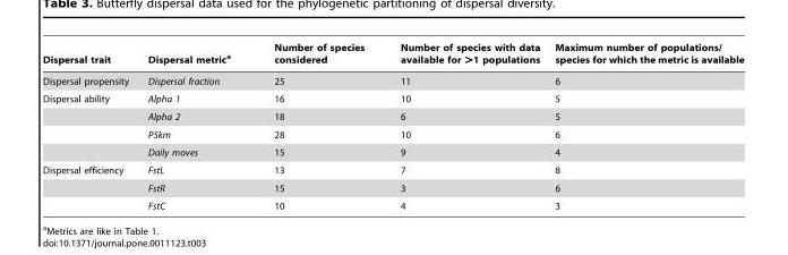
<table><thead><tr><td>Dispersal trait</td><td>Dispersal metric<sup>a</sup></td><td>Number of species considered</td><td>Number of species with data available for &gt;1 populations</td><td>Maximum number of populations/ species for which the metric is available</td></tr></thead><tbody><tr><td>Dispersal propensity</td><td>Dispersal fraction</td><td>25</td><td>11</td><td>6</td></tr><tr><td rowspan="4">Dispersal ability</td><td>Alpha 1</td><td>16</td><td>10</td><td>5</td></tr><tr><td>Alpha 2</td><td>18</td><td>6</td><td>5</td></tr><tr><td>P5km</td><td>28</td><td>10</td><td>6</td></tr><tr><td>Daily moves</td><td>15</td><td>9</td><td>4</td></tr><tr><td rowspan="3">Dispersal efficiency</td><td>FstL</td><td>13</td><td>7</td><td>8</td></tr><tr><td>FstR</td><td>15</td><td>3</td><td>6</td></tr><tr><td>FstC</td><td>10</td><td>4</td><td>3</td></tr></tbody></table>